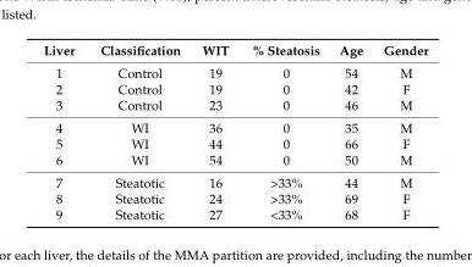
<table><thead><tr><td>Liver</td><td>Classification</td><td>WIT</td><td>% Steatosis</td><td>Age</td><td>Gender</td></tr></thead><tbody><tr><td>1</td><td>Control</td><td>19</td><td>0</td><td>54</td><td>M</td></tr><tr><td>2</td><td>Control</td><td>19</td><td>0</td><td>42</td><td>F</td></tr><tr><td>3</td><td>Control</td><td>23</td><td>0</td><td>46</td><td>M</td></tr><tr><td>4</td><td>WI</td><td>36</td><td>0</td><td>35</td><td>M</td></tr><tr><td>5</td><td>WI</td><td>44</td><td>0</td><td>66</td><td>F</td></tr><tr><td>6</td><td>WI</td><td>54</td><td>0</td><td>50</td><td>M</td></tr><tr><td>7</td><td>Steatotic</td><td>16</td><td>&gt;33%</td><td>44</td><td>M</td></tr><tr><td>8</td><td>Steatotic</td><td>24</td><td>&gt;33%</td><td>69</td><td>F</td></tr><tr><td>9</td><td>Steatotic</td><td>27</td><td>&lt;33%</td><td>68</td><td>F</td></tr></tbody></table>